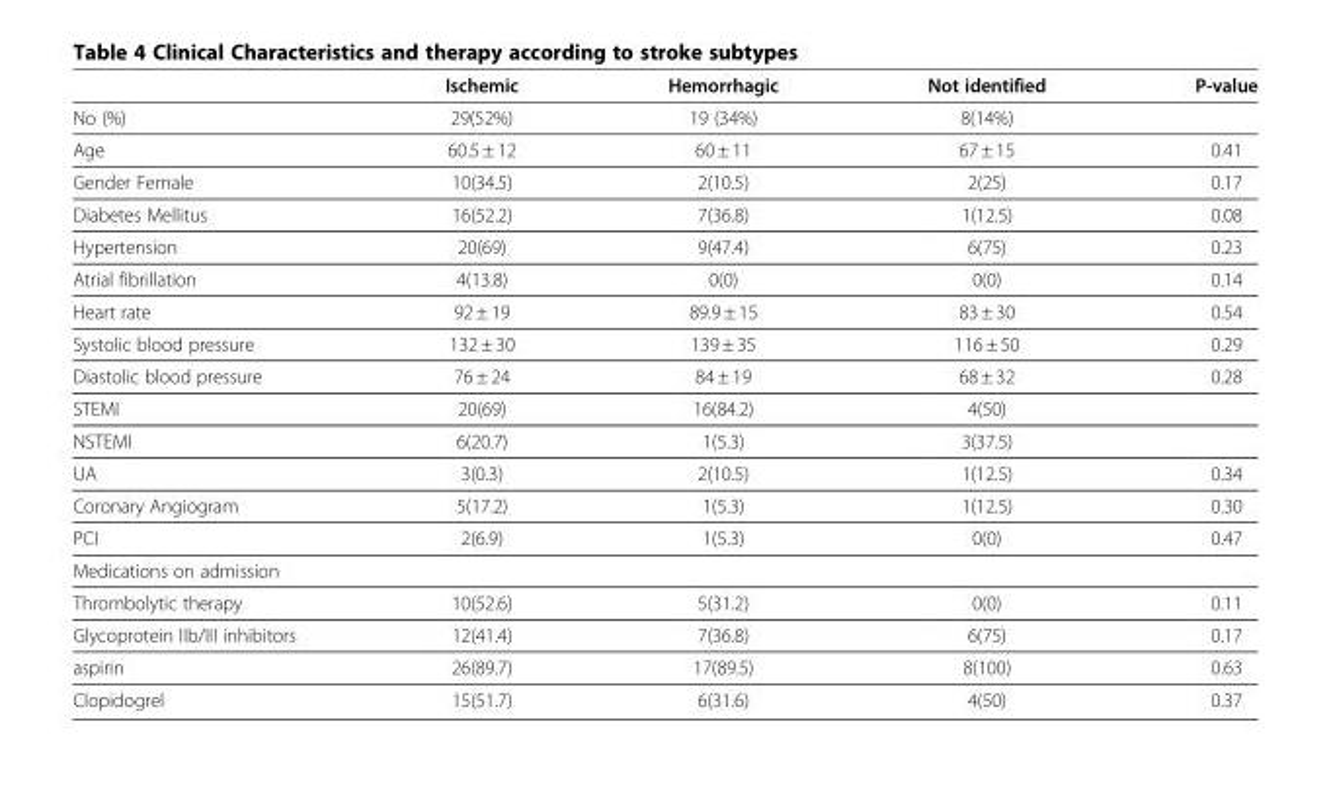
<table><thead><tr><td></td><td>Ischemic</td><td>Hemorrhagic</td><td>Not identified</td><td>P-value</td></tr></thead><tbody><tr><td>No (%)</td><td>29(52%)</td><td>19 (34%)</td><td>8(14%)</td><td></td></tr><tr><td>Age</td><td>60.5 ± 12</td><td>60 ± 11</td><td>67 ± 15</td><td>0.41</td></tr><tr><td>Gender Female</td><td>10(34.5)</td><td>2(10.5)</td><td>2(25)</td><td>0.17</td></tr><tr><td>Diabetes Mellitus</td><td>16(52.2)</td><td>7(36.8)</td><td>1(12.5)</td><td>0.08</td></tr><tr><td>Hypertension</td><td>20(69)</td><td>9(47.4)</td><td>6(75)</td><td>0.23</td></tr><tr><td>Atrial fibrillation</td><td>4(13.8)</td><td>0(0)</td><td>0(0)</td><td>0.14</td></tr><tr><td>Heart rate</td><td>92 ± 19</td><td>89.9 ± 15</td><td>83 ± 30</td><td>0.54</td></tr><tr><td>Systolic blood pressure</td><td>132 ± 30</td><td>139 ± 35</td><td>116 ± 50</td><td>0.29</td></tr><tr><td>Diastolic blood pressure</td><td>76 ± 24</td><td>84 ± 19</td><td>68 ± 32</td><td>0.28</td></tr><tr><td>STEMI</td><td>20(69)</td><td>16(84.2)</td><td>4(50)</td><td></td></tr><tr><td>NSTEMI</td><td>6(20.7)</td><td>1(5.3)</td><td>3(37.5)</td><td></td></tr><tr><td>UA</td><td>3(0.3)</td><td>2(10.5)</td><td>1(12.5)</td><td>0.34</td></tr><tr><td>Coronary Angiogram</td><td>5(17.2)</td><td>1(5.3)</td><td>1(12.5)</td><td>0.30</td></tr><tr><td>PCI</td><td>2(6.9)</td><td>1(5.3)</td><td>0(0)</td><td>0.47</td></tr><tr><td colspan="5">Medications on admission</td></tr><tr><td>Thrombolytic therapy</td><td>10(52.6)</td><td>5(31.2)</td><td>0(0)</td><td>0.11</td></tr><tr><td>Glycoprotein IIb/III inhibitors</td><td>12(41.4)</td><td>7(36.8)</td><td>6(75)</td><td>0.17</td></tr><tr><td>aspirin</td><td>26(89.7)</td><td>17(89.5)</td><td>8(100)</td><td>0.63</td></tr><tr><td>Clopidogrel</td><td>15(51.7)</td><td>6(31.6)</td><td>4(50)</td><td>0.37</td></tr></tbody></table>